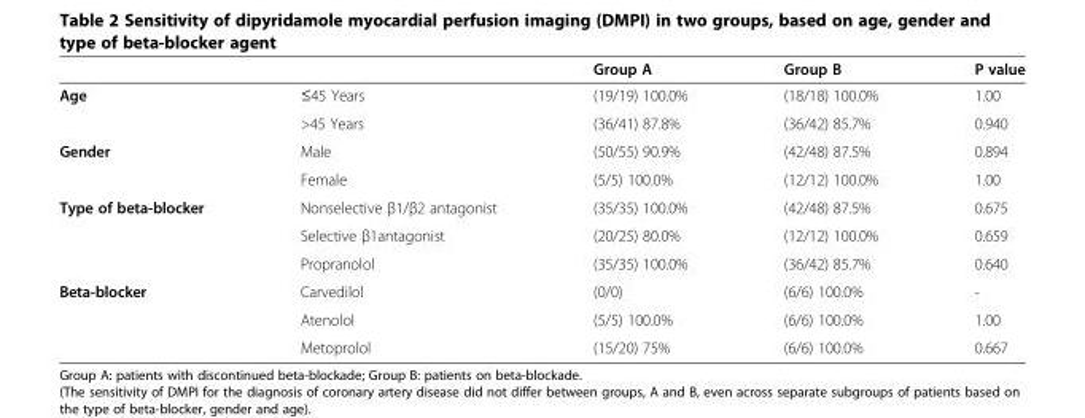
<table><thead><tr><td></td><td></td><td>Group A</td><td>Group B</td><td>P value</td></tr></thead><tbody><tr><td rowspan="2">Age</td><td>≤45 Years</td><td>(19/19) 100.0%</td><td>(18/18) 100.0%</td><td>1.00</td></tr><tr><td>&gt;45 Years</td><td>(36/41) 87.8%</td><td>(36/42) 85.7%</td><td>0.940</td></tr><tr><td rowspan="2">Gender</td><td>Male</td><td>(50/55) 90.9%</td><td>(42/48) 87.5%</td><td>0.894</td></tr><tr><td>Female</td><td>(5/5) 100.0%</td><td>(12/12) 100.0%</td><td>1.00</td></tr><tr><td rowspan="3">Type of beta-blocker</td><td>Nonselective β1/β2 antagonist</td><td>(35/35) 100.0%</td><td>(42/48) 87.5%</td><td>0.675</td></tr><tr><td>Selective β1antagonist</td><td>(20/25) 80.0%</td><td>(12/12) 100.0%</td><td>0.659</td></tr><tr><td>Propranolol</td><td>(35/35) 100.0%</td><td>(36/42) 85.7%</td><td>0.640</td></tr><tr><td rowspan="3">Beta-blocker</td><td>Carvedilol</td><td>(0/0)</td><td>(6/6) 100.0%</td><td>-</td></tr><tr><td>Atenolol</td><td>(5/5) 100.0%</td><td>(6/6) 100.0%</td><td>1.00</td></tr><tr><td>Metoprolol</td><td>(15/20) 75%</td><td>(6/6) 100.0%</td><td>0.667</td></tr></tbody></table>